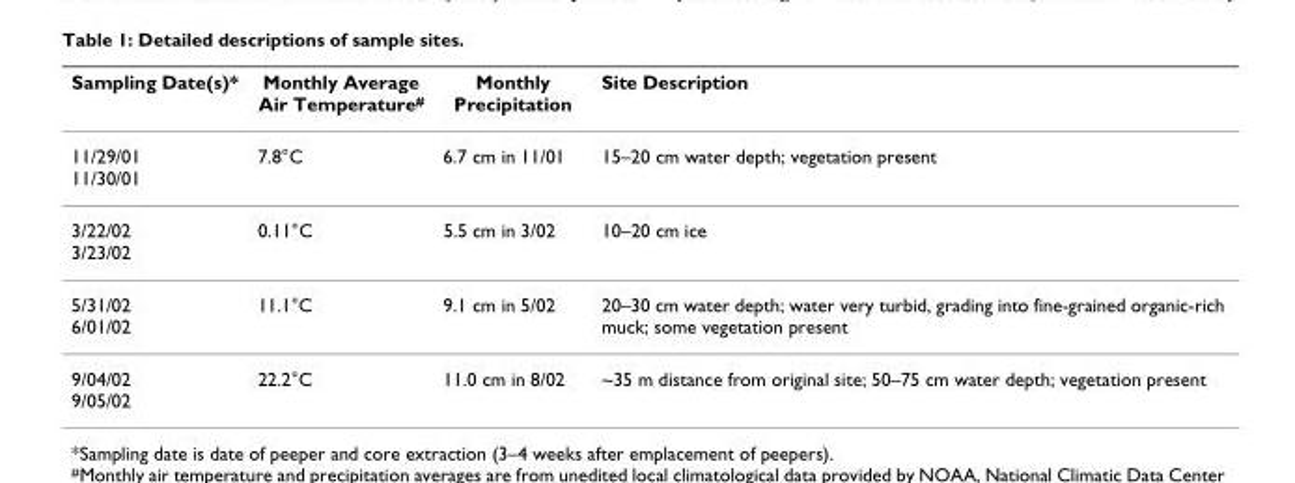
<table><thead><tr><td>Sampling Date(s)*</td><td>Monthly Average Air Temperature<sup>#</sup></td><td>Monthly Precipitation</td><td>Site Description</td></tr></thead><tbody><tr><td>11/29/01 11/30/01</td><td>7.8°C</td><td>6.7 cm in 11/01</td><td>15–20 cm water depth; vegetation present</td></tr><tr><td>3/22/02 3/23/02</td><td>0.11°C</td><td>5.5 cm in 3/02</td><td>10–20 cm ice</td></tr><tr><td>5/31/02 6/01/02</td><td>11.1°C</td><td>9.1 cm in 5/02</td><td>20–30 cm water depth; water very turbid, grading into fine-grained organic-rich muck; some vegetation present</td></tr><tr><td>9/04/02 9/05/02</td><td>22.2°C</td><td>11.0 cm in 8/02</td><td>~35 m distance from original site; 50–75 cm water depth; vegetation present</td></tr></tbody></table>